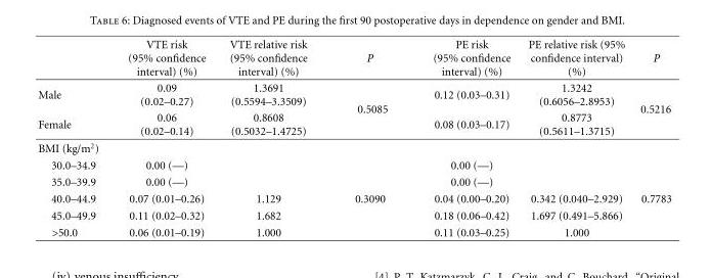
<table><thead><tr><td></td><td>VTE risk (95% confidence interval) (%)</td><td>VTE relative risk (95% confidence interval) (%)</td><td>P</td><td>PE risk (95% confidence interval) (%)</td><td>PE relative risk (95% confidence interval) (%)</td><td>P</td></tr></thead><tbody><tr><td>Male</td><td>0.09 (0.02–0.27)</td><td>1.3691 (0.5594–3.3509)</td><td rowspan="2">0.5085</td><td>0.12 (0.03–0.31)</td><td>1.3242 (0.6056–2.8953)</td><td rowspan="2">0.5216</td></tr><tr><td>Female</td><td>0.06 (0.02–0.14)</td><td>0.8608 (0.5032–1.4725)</td><td>0.08 (0.03–0.17)</td><td>0.8773 (0.5611–1.3715)</td></tr><tr><td colspan="7">BMI (kg/m<sup>2</sup>)</td></tr><tr><td>30.0–34.9</td><td>0.00 (—)</td><td></td><td></td><td>0.00 (—)</td><td></td><td></td></tr><tr><td>35.0–39.9</td><td>0.00 (—)</td><td></td><td></td><td>0.00 (—)</td><td></td><td></td></tr><tr><td>40.0–44.9</td><td>0.07 (0.01–0.26)</td><td>1.129</td><td>0.3090</td><td>0.04 (0.00–0.20)</td><td>0.342 (0.040–2.929)</td><td>0.7783</td></tr><tr><td>45.0–49.9</td><td>0.11 (0.02–0.32)</td><td>1.682</td><td></td><td>0.18 (0.06–0.42)</td><td>1.697 (0.491–5.866)</td><td></td></tr><tr><td>&gt;50.0</td><td>0.06 (0.01–0.19)</td><td>1.000</td><td></td><td>0.11 (0.03–0.25)</td><td>1.000</td><td></td></tr></tbody></table>